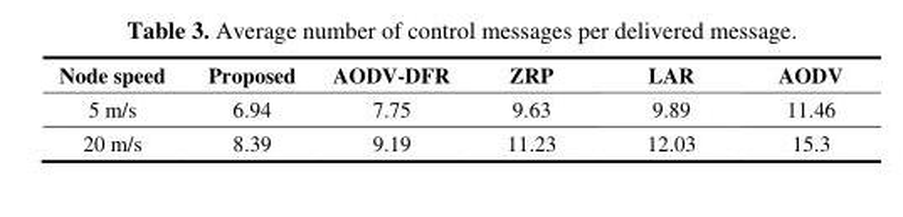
<table><thead><tr><td>Node speed</td><td>Proposed</td><td>AODV-DFR</td><td>ZRP</td><td>LAR</td><td>AODV</td></tr></thead><tbody><tr><td>5 m/s</td><td>6.94</td><td>7.75</td><td>9.63</td><td>9.89</td><td>11.46</td></tr><tr><td>20 m/s</td><td>8.39</td><td>9.19</td><td>11.23</td><td>12.03</td><td>15.3</td></tr></tbody></table>